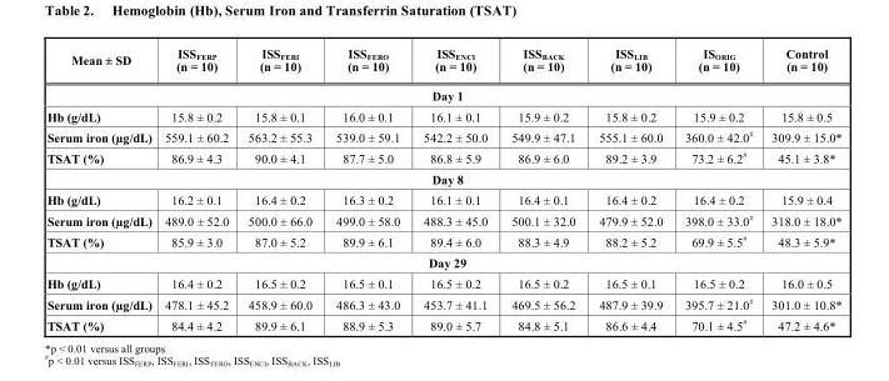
<table><thead><tr><td>Mean ± SD</td><td>ISS<sub>FERP</sub> (n = 10)</td><td>ISS<sub>FERI</sub> (n = 10)</td><td>ISS<sub>FERO</sub> (n = 10)</td><td>ISS<sub>ENCI</sub> (n = 10)</td><td>ISS<sub>BACK</sub> (n = 10)</td><td>ISS<sub>LIB</sub> (n = 10)</td><td>IS<sub>ORIG</sub> (n = 10)</td><td>Control (n = 10)</td></tr></thead><tbody><tr><td colspan="9">Day 1</td></tr><tr><td>Hb (g/dL)</td><td>15.8 ± 0.2</td><td>15.8 ± 0.1</td><td>16.0 ± 0.1</td><td>16.1 ± 0.1</td><td>15.9 ± 0.2</td><td>15.8 ± 0.2</td><td>15.9 ± 0.2</td><td>15.8 ± 0.5</td></tr><tr><td>Serum iron (µg/dL)</td><td>559.1 ± 60.2</td><td>563.2 ± 55.3</td><td>539.0 ± 59.1</td><td>542.2 ± 50.0</td><td>549.9 ± 47.1</td><td>555.1 ± 60.0</td><td>360.0 ± 42.0#</td><td>309.9 ± 15.0*</td></tr><tr><td>TSAT (%)</td><td>86.9 ± 4.3</td><td>90.0 ± 4.1</td><td>87.7 ± 5.0</td><td>86.8 ± 5.9</td><td>86.9 ± 6.0</td><td>89.2 ± 3.9</td><td>73.2 ± 6.2#</td><td>45.1 ± 3.8*</td></tr><tr><td colspan="9">Day 8</td></tr><tr><td>Hb (g/dL)</td><td>16.2 ± 0.1</td><td>16.4 ± 0.2</td><td>16.3 ± 0.2</td><td>16.1 ± 0.1</td><td>16.4 ± 0.1</td><td>16.4 ± 0.2</td><td>16.4 ± 0.2</td><td>15.9 ± 0.4</td></tr><tr><td>Serum iron (µg/dL)</td><td>489.0 ± 52.0</td><td>500.0 ± 66.0</td><td>499.0 ± 58.0</td><td>488.3 ± 45.0</td><td>500.1 ± 32.0</td><td>479.9 ± 52.0</td><td>398.0 ± 33.0#</td><td>318.0 ± 18.0*</td></tr><tr><td>TSAT (%)</td><td>85.9 ± 3.0</td><td>87.0 ± 5.2</td><td>89.9 ± 6.1</td><td>89.4 ± 6.0</td><td>88.3 ± 4.9</td><td>88.2 ± 5.2</td><td>69.9 ± 5.5#</td><td>48.3 ± 5.9*</td></tr><tr><td colspan="9">Day 29</td></tr><tr><td>Hb (g/dL)</td><td>16.4 ± 0.2</td><td>16.5 ± 0.2</td><td>16.5 ± 0.1</td><td>16.5 ± 0.2</td><td>16.5 ± 0.2</td><td>16.5 ± 0.1</td><td>16.5 ± 0.2</td><td>16.0 ± 0.5</td></tr><tr><td>Serum iron (µg/dL)</td><td>478.1 ± 45.2</td><td>458.9 ± 60.0</td><td>486.3 ± 43.0</td><td>453.7 ± 41.1</td><td>469.5 ± 56.2</td><td>487.9 ± 39.9</td><td>395.7 ± 21.0#</td><td>301.0 ± 10.8*</td></tr><tr><td>TSAT (%)</td><td>84.4 ± 4.2</td><td>89.9 ± 6.1</td><td>88.9 ± 5.3</td><td>89.0 ± 5.7</td><td>84.8 ± 5.1</td><td>86.6 ± 4.4</td><td>70.1 ± 4.5#</td><td>47.2 ± 4.6*</td></tr></tbody></table>